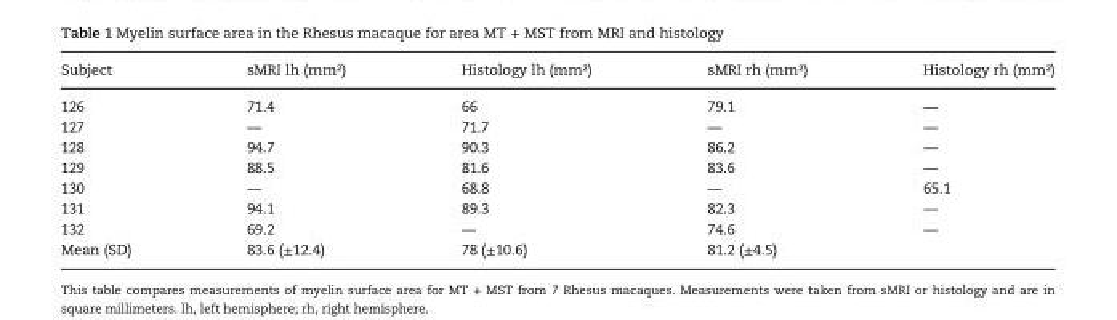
<table><thead><tr><td>Subject</td><td>sMRI lh (mm²)</td><td>Histology lh (mm²)</td><td>sMRI rh (mm²)</td><td>Histology rh (mm²)</td></tr></thead><tbody><tr><td>126</td><td>71.4</td><td>66</td><td>79.1</td><td>—</td></tr><tr><td>127</td><td>—</td><td>71.7</td><td>—</td><td>—</td></tr><tr><td>128</td><td>94.7</td><td>90.3</td><td>86.2</td><td>—</td></tr><tr><td>129</td><td>88.5</td><td>81.6</td><td>83.6</td><td>—</td></tr><tr><td>130</td><td>—</td><td>68.8</td><td>—</td><td>65.1</td></tr><tr><td>131</td><td>94.1</td><td>89.3</td><td>82.3</td><td>—</td></tr><tr><td>132</td><td>69.2</td><td>—</td><td>74.6</td><td>—</td></tr><tr><td>Mean (SD)</td><td>83.6 (±12.4)</td><td>78 (±10.6)</td><td>81.2 (±4.5)</td><td></td></tr></tbody></table>